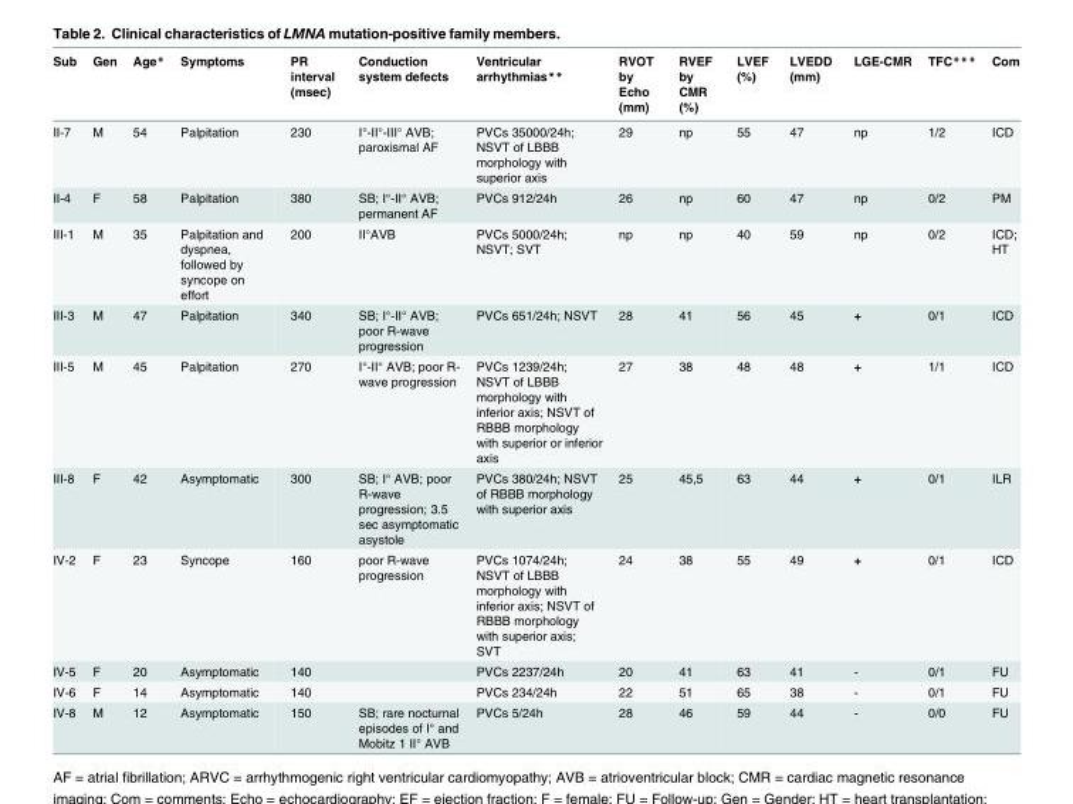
<table><thead><tr><td>Sub</td><td>Gen</td><td>Age*</td><td>Symptoms</td><td>PR interval (msec)</td><td>Conduction system defects</td><td>Ventricular arrhythmias**</td><td>RVOT by Echo (mm)</td><td>RVEF by CMR (%)</td><td>LVEF (%)</td><td>LVEDD (mm)</td><td>LGE-CMR</td><td>TFC***</td><td>Com</td></tr></thead><tbody><tr><td>II-7</td><td>M</td><td>54</td><td>Palpitation</td><td>230</td><td>I°-II°-III° AVB; paroxismal AF</td><td>PVCs 35000/24h; NSVT of LBBB morphology with superior axis</td><td>29</td><td>np</td><td>55</td><td>47</td><td>np</td><td>1/2</td><td>ICD</td></tr><tr><td>II-4</td><td>F</td><td>58</td><td>Palpitation</td><td>380</td><td>SB; I°-II° AVB; permanent AF</td><td>PVCs 912/24h</td><td>26</td><td>np</td><td>60</td><td>47</td><td>np</td><td>0/2</td><td>PM</td></tr><tr><td>III-1</td><td>M</td><td>35</td><td>Palpitation and dyspnea, followed by syncope on effort</td><td>200</td><td>II°AVB</td><td>PVCs 5000/24h; NSVT; SVT</td><td>np</td><td>np</td><td>40</td><td>59</td><td>np</td><td>0/2</td><td>ICD; HT</td></tr><tr><td>III-3</td><td>M</td><td>47</td><td>Palpitation</td><td>340</td><td>SB; I°-II° AVB; poor R-wave progression</td><td>PVCs 651/24h; NSVT</td><td>28</td><td>41</td><td>56</td><td>45</td><td>+</td><td>0/1</td><td>ICD</td></tr><tr><td>III-5</td><td>M</td><td>45</td><td>Palpitation</td><td>270</td><td>I°-II° AVB; poor R- wave progression</td><td>PVCs 1239/24h; NSVT of LBBB morphology with inferior axis; NSVT of RBBB morphology with superior or inferior axis</td><td>27</td><td>38</td><td>48</td><td>48</td><td>+</td><td>1/1</td><td>ICD</td></tr><tr><td>III-8</td><td>F</td><td>42</td><td>Asymptomatic</td><td>300</td><td>SB; I° AVB; poor R-wave progression; 3.5 sec asymptomatic asystole</td><td>PVCs 380/24h; NSVT of RBBB morphology with superior axis</td><td>25</td><td>45,5</td><td>63</td><td>44</td><td>+</td><td>0/1</td><td>ILR</td></tr><tr><td>IV-2</td><td>F</td><td>23</td><td>Syncope</td><td>160</td><td>poor R-wave progression</td><td>PVCs 1074/24h; NSVT of LBBB morphology with inferior axis; NSVT of RBBB morphology with superior axis; SVT</td><td>24</td><td>38</td><td>55</td><td>49</td><td>+</td><td>0/1</td><td>ICD</td></tr><tr><td>IV-5</td><td>F</td><td>20</td><td>Asymptomatic</td><td>140</td><td></td><td>PVCs 2237/24h</td><td>20</td><td>41</td><td>63</td><td>41</td><td>-</td><td>0/1</td><td>FU</td></tr><tr><td>IV-6</td><td>F</td><td>14</td><td>Asymptomatic</td><td>140</td><td></td><td>PVCs 234/24h</td><td>22</td><td>51</td><td>65</td><td>38</td><td>-</td><td>0/1</td><td>FU</td></tr><tr><td>IV-8</td><td>M</td><td>12</td><td>Asymptomatic</td><td>150</td><td>SB; rare nocturnal episodes of I° and Mobitz 1 II° AVB</td><td>PVCs 5/24h</td><td>28</td><td>46</td><td>59</td><td>44</td><td>-</td><td>0/0</td><td>FU</td></tr></tbody></table>